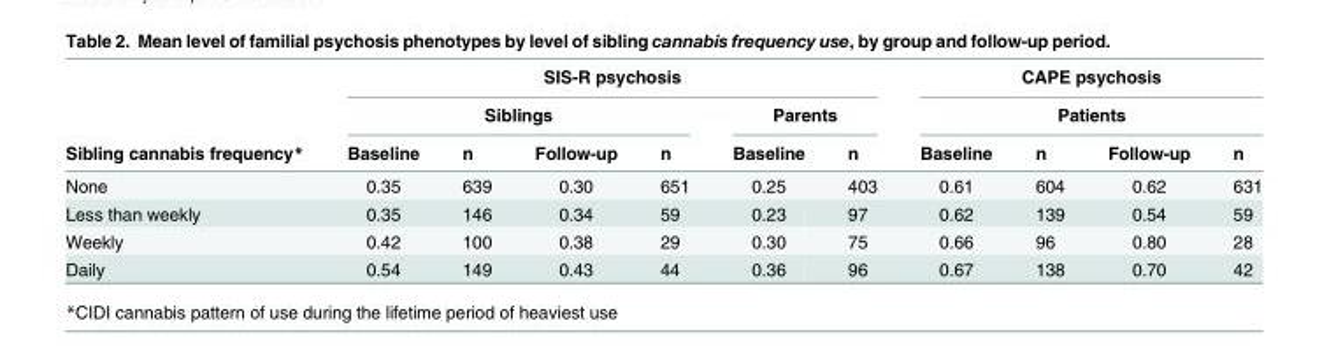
<table><thead><tr><td rowspan="3">Sibling cannabis frequency*</td><td colspan="6">SIS-R psychosis</td><td rowspan="2" colspan="4">CAPE psychosis Patients</td></tr><tr><td colspan="4">Siblings</td><td colspan="2">Parents</td></tr><tr><td>Baseline</td><td>n</td><td>Follow-up</td><td>n</td><td>Baseline</td><td>n</td><td>Baseline</td><td>n</td><td>Follow-up</td><td>n</td></tr></thead><tbody><tr><td>None</td><td>0.35</td><td>639</td><td>0.30</td><td>651</td><td>0.25</td><td>403</td><td>0.61</td><td>604</td><td>0.62</td><td>631</td></tr><tr><td>Less than weekly</td><td>0.35</td><td>146</td><td>0.34</td><td>59</td><td>0.23</td><td>97</td><td>0.62</td><td>139</td><td>0.54</td><td>59</td></tr><tr><td>Weekly</td><td>0.42</td><td>100</td><td>0.38</td><td>29</td><td>0.30</td><td>75</td><td>0.66</td><td>96</td><td>0.80</td><td>28</td></tr><tr><td>Daily</td><td>0.54</td><td>149</td><td>0.43</td><td>44</td><td>0.36</td><td>96</td><td>0.67</td><td>138</td><td>0.70</td><td>42</td></tr></tbody></table>